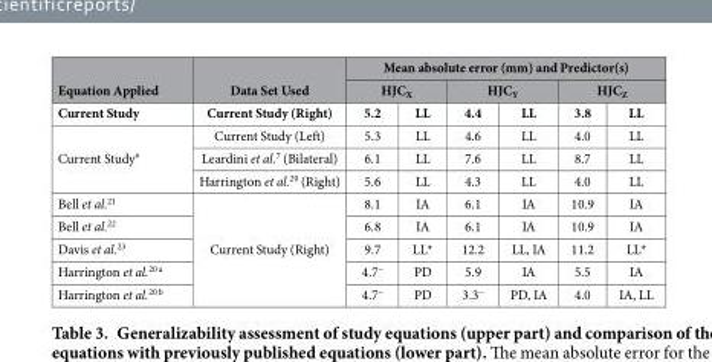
<table><thead><tr><td rowspan="3">Equation Applied Current Study</td><td rowspan="3">Data Set Used Current Study (Right)</td><td colspan="6">Mean absolute error (mm) and Predictor(s)</td></tr><tr><td colspan="2">HJC<sub>X</sub></td><td colspan="2">HJC<sub>Y</sub></td><td colspan="2">HJC<sub>Z</sub></td></tr><tr><td>5.2</td><td>LL</td><td>4.4</td><td>LL</td><td>3.8</td><td>LL</td></tr></thead><tbody><tr><td rowspan="3">Current Study#</td><td>Current Study (Left)</td><td>5.3</td><td>LL</td><td>4.6</td><td>LL</td><td>4.0</td><td>LL</td></tr><tr><td>Leardini et al.<sup>7</sup> (Bilateral)</td><td>6.1</td><td>LL</td><td>7.6</td><td>LL</td><td>8.7</td><td>LL</td></tr><tr><td>Harrington et al.<sup>20</sup> (Right)</td><td>5.6</td><td>LL</td><td>4.3</td><td>LL</td><td>4.0</td><td>LL</td></tr><tr><td>Bell et al.<sup>21</sup></td><td rowspan="5">Current Study (Right)</td><td>8.1</td><td>IA</td><td>6.1</td><td>IA</td><td>10.9</td><td>IA</td></tr><tr><td>Bell et al.<sup>22</sup></td><td>6.8</td><td>IA</td><td>6.1</td><td>IA</td><td>10.9</td><td>IA</td></tr><tr><td>Davis et al.<sup>23</sup></td><td>9.7</td><td>LL*</td><td>12.2</td><td>LL, IA</td><td>11.2</td><td>LL*</td></tr><tr><td>Harrington et al.<sup>20 a</sup></td><td>4.7~</td><td>PD</td><td>5.9</td><td>IA</td><td>5.5</td><td>IA</td></tr><tr><td>Harrington et al.<sup>20 b</sup></td><td>4.7~</td><td>PD</td><td>3.3~</td><td>PD, IA</td><td>4.0</td><td>IA, LL</td></tr></tbody></table>